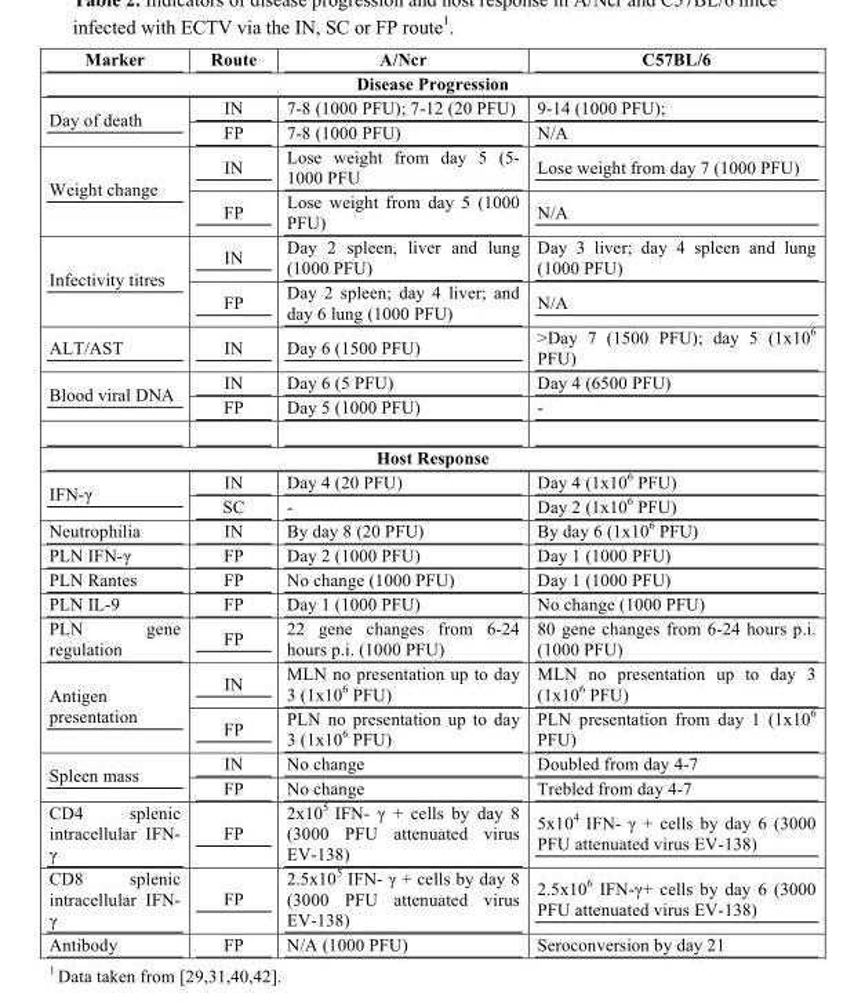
<table><thead><tr><td>Marker</td><td>Route</td><td>A/Ncr</td><td>C57BL/6</td></tr></thead><tbody><tr><td colspan="4">Disease Progression</td></tr><tr><td rowspan="2">Day of death</td><td>IN</td><td>7-8 (1000 PFU); 7-12 (20 PFU)</td><td>9-14 (1000 PFU);</td></tr><tr><td>FP</td><td>7-8 (1000 PFU)</td><td>N/A</td></tr><tr><td rowspan="2">Weight change</td><td>IN</td><td>Lose weight from day 5 (5- 1000 PFU</td><td>Lose weight from day 7 (1000 PFU)</td></tr><tr><td>FP</td><td>Lose weight from day 5 (1000 PFU)</td><td>N/A</td></tr><tr><td rowspan="2">Infectivity titres</td><td>IN</td><td>Day 2 spleen, liver and lung (1000 PFU)</td><td>Day 3 liver; day 4 spleen and lung (1000 PFU)</td></tr><tr><td>FP</td><td>Day 2 spleen; day 4 liver; and day 6 lung (1000 PFU)</td><td>N/A</td></tr><tr><td>ALT/AST</td><td>IN</td><td>Day 6 (1500 PFU)</td><td>&gt;Day 7 (1500 PFU); day 5 (1x10<sup>6</sup> PFU)</td></tr><tr><td rowspan="2">Blood viral DNA</td><td>IN</td><td>Day 6 (5 PFU)</td><td>Day 4 (6500 PFU)</td></tr><tr><td>FP</td><td>Day 5 (1000 PFU)</td><td>-</td></tr><tr><td colspan="4">Host Response</td></tr><tr><td rowspan="2">IFN-γ</td><td>IN</td><td>Day 4 (20 PFU)</td><td>Day 4 (1x106 PFU)</td></tr><tr><td>SC</td><td>-</td><td>Day 2 (1x106 PFU)</td></tr><tr><td>Neutrophilia</td><td>IN</td><td>By day 8 (20 PFU)</td><td>By day 6 (1x106 PFU)</td></tr><tr><td>PLN IFN-γ</td><td>FP</td><td>Day 2 (1000 PFU)</td><td>Day 1 (1000 PFU)</td></tr><tr><td>PLN Rantes</td><td>FP</td><td>No change (1000 PFU)</td><td>Day 1 (1000 PFU)</td></tr><tr><td>PLN IL-9</td><td>FP</td><td>Day 1 (1000 PFU)</td><td>No change (1000 PFU)</td></tr><tr><td>PLN gene regulation</td><td>FP</td><td>22 gene changes from 6-24 hours p.i. (1000 PFU)</td><td>80 gene changes from 6-24 hours p.i. (1000 PFU)</td></tr><tr><td rowspan="2">Antigen presentation</td><td>IN</td><td>MLN no presentation up to day 3 (1x106 PFU)</td><td>MLN no presentation up to day 3 (1x106 PFU)</td></tr><tr><td>FP</td><td>PLN no presentation up to day 3 (1x106 PFU)</td><td>PLN presentation from day 1 (1x106 PFU)</td></tr><tr><td rowspan="2">Spleen mass</td><td>IN</td><td>No change</td><td>Doubled from day 4-7</td></tr><tr><td>FP</td><td>No change</td><td>Trebled from day 4-7</td></tr><tr><td>CD4 splenic intracellular IFN- γ</td><td>FP</td><td>2x105 IFN- γ + cells by day 8 (3000 PFU attenuated virus EV-138)</td><td>5x104 IFN- γ + cells by day 6 (3000 PFU attenuated virus EV-138)</td></tr><tr><td>CD8 splenic intracellular IFN- γ</td><td>FP</td><td>2.5x105 IFN- γ + cells by day 8 (3000 PFU attenuated virus EV-138)</td><td>2.5x106 IFN-γ+ cells by day 6 (3000 PFU attenuated virus EV-138)</td></tr><tr><td>Antibody</td><td>FP</td><td>N/A (1000 PFU)</td><td>Seroconversion by day 21</td></tr></tbody></table>